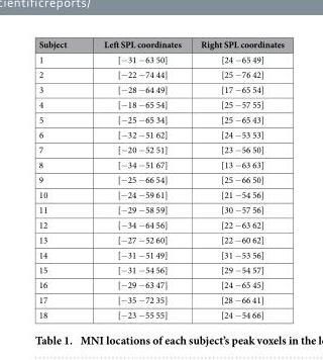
<table><thead><tr><td>Subject</td><td>Left SPL coordinates</td><td>Right SPL coordinates</td></tr></thead><tbody><tr><td>1</td><td>[− 31 − 63 50]</td><td>[24 − 65 49]</td></tr><tr><td>2</td><td>[− 22 − 74 44]</td><td>[25 − 76 42]</td></tr><tr><td>3</td><td>[− 28 − 64 49]</td><td>[17 − 65 54]</td></tr><tr><td>4</td><td>[− 18 − 65 54]</td><td>[25 − 57 55]</td></tr><tr><td>5</td><td>[− 25 − 65 34]</td><td>[25 − 65 43]</td></tr><tr><td>6</td><td>[− 32 − 51 62]</td><td>[24 − 53 53]</td></tr><tr><td>7</td><td>[− 20 − 52 51]</td><td>[23 − 56 50]</td></tr><tr><td>8</td><td>[− 34 − 51 67]</td><td>[13 − 63 63]</td></tr><tr><td>9</td><td>[− 25 − 66 54]</td><td>[25 − 66 50]</td></tr><tr><td>10</td><td>[− 24 − 59 61]</td><td>[21 − 54 56]</td></tr><tr><td>11</td><td>[− 29 − 58 59]</td><td>[30 − 57 56]</td></tr><tr><td>12</td><td>[− 34 − 64 56]</td><td>[22 − 63 62]</td></tr><tr><td>13</td><td>[− 27 − 52 60]</td><td>[22 − 60 62]</td></tr><tr><td>14</td><td>[− 31 − 51 49]</td><td>[31 − 53 56]</td></tr><tr><td>15</td><td>[− 31 − 54 56]</td><td>[29 − 54 57]</td></tr><tr><td>16</td><td>[− 29 − 63 47]</td><td>[24 − 65 45]</td></tr><tr><td>17</td><td>[− 35 − 72 35]</td><td>[28 − 66 41]</td></tr><tr><td>18</td><td>[− 23 − 55 55]</td><td>[24 − 54 66]</td></tr></tbody></table>